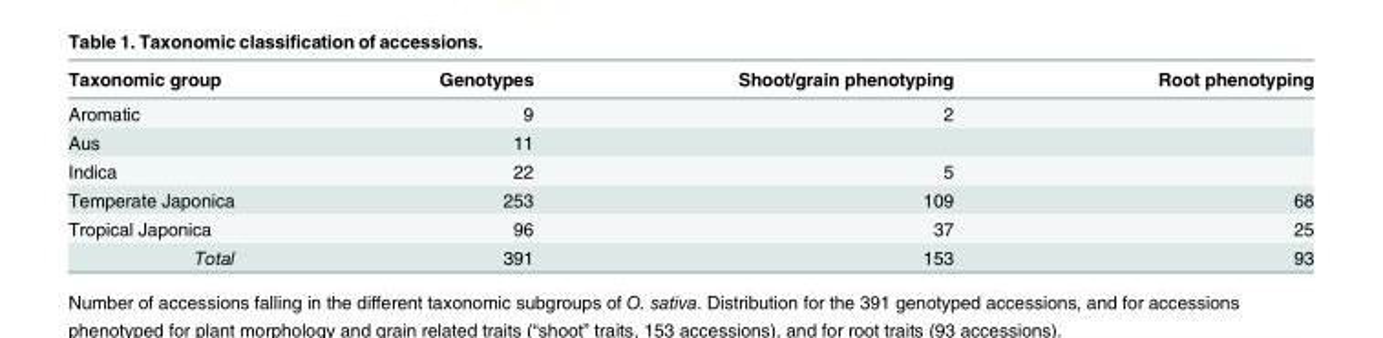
<table><thead><tr><td>Taxonomic group</td><td>Genotypes</td><td>Shoot/grain phenotyping</td><td>Root phenotyping</td></tr></thead><tbody><tr><td>Aromatic</td><td>9</td><td>2</td><td></td></tr><tr><td>Aus</td><td>11</td><td></td><td></td></tr><tr><td>Indica</td><td>22</td><td>5</td><td></td></tr><tr><td>Temperate Japonica</td><td>253</td><td>109</td><td>68</td></tr><tr><td>Tropical Japonica</td><td>96</td><td>37</td><td>25</td></tr><tr><td>Total</td><td>391</td><td>153</td><td>93</td></tr></tbody></table>